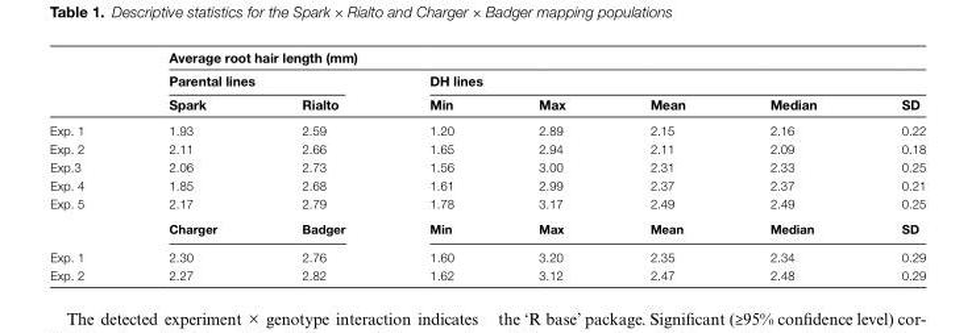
<table><thead><tr><td rowspan="3"></td><td colspan="7">Average root hair length (mm)</td></tr><tr><td colspan="2">Parental lines</td><td colspan="5">DH lines</td></tr><tr><td>Spark</td><td>Rialto</td><td>Min</td><td>Max</td><td>Mean</td><td>Median</td><td>SD</td></tr></thead><tbody><tr><td>Exp. 1</td><td>1.93</td><td>2.59</td><td>1.20</td><td>2.89</td><td>2.15</td><td>2.16</td><td>0.22</td></tr><tr><td>Exp. 2</td><td>2.11</td><td>2.66</td><td>1.65</td><td>2.94</td><td>2.11</td><td>2.09</td><td>0.18</td></tr><tr><td>Exp.3</td><td>2.06</td><td>2.73</td><td>1.56</td><td>3.00</td><td>2.31</td><td>2.33</td><td>0.25</td></tr><tr><td>Exp. 4</td><td>1.85</td><td>2.68</td><td>1.61</td><td>2.99</td><td>2.37</td><td>2.37</td><td>0.21</td></tr><tr><td rowspan="2">Exp. 5</td><td>2.17</td><td>2.79</td><td>1.78</td><td>3.17</td><td>2.49</td><td>2.49</td><td>0.25</td></tr><tr><td>Charger</td><td>Badger</td><td>Min</td><td>Max</td><td>Mean</td><td>Median</td><td>SD</td></tr><tr><td>Exp. 1</td><td>2.30</td><td>2.76</td><td>1.60</td><td>3.20</td><td>2.35</td><td>2.34</td><td>0.29</td></tr><tr><td>Exp. 2</td><td>2.27</td><td>2.82</td><td>1.62</td><td>3.12</td><td>2.47</td><td>2.48</td><td>0.29</td></tr></tbody></table>